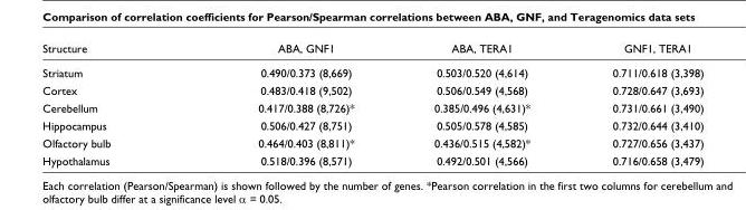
<table><thead><tr><td>Structure</td><td>ABA, GNF1</td><td>ABA, TERA1</td><td>GNF1, TERA1</td></tr></thead><tbody><tr><td>Striatum</td><td>0.490/0.373 (8,669)</td><td>0.503/0.520 (4,614)</td><td>0.711/0.618 (3,398)</td></tr><tr><td>Cortex</td><td>0.483/0.418 (9,502)</td><td>0.506/0.549 (4,568)</td><td>0.728/0.647 (3,693)</td></tr><tr><td>Cerebellum</td><td>0.417/0.388 (8,726)*</td><td>0.385/0.496 (4,631)*</td><td>0.731/0.661 (3,490)</td></tr><tr><td>Hippocampus</td><td>0.506/0.427 (8,751)</td><td>0.505/0.578 (4,585)</td><td>0.732/0.644 (3,410)</td></tr><tr><td>Olfactory bulb</td><td>0.464/0.403 (8,811)*</td><td>0.436/0.515 (4,582)*</td><td>0.727/0.656 (3,437)</td></tr><tr><td>Hypothalamus</td><td>0.518/0.396 (8,571)</td><td>0.492/0.501 (4,566)</td><td>0.716/0.658 (3,479)</td></tr></tbody></table>